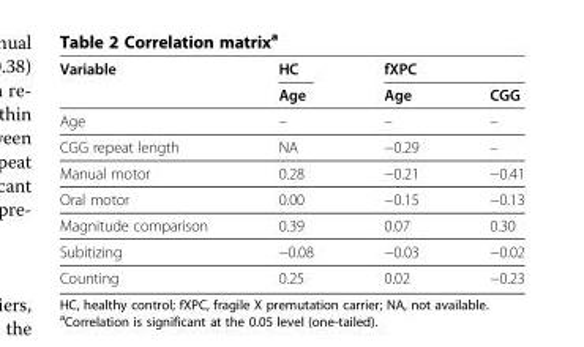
<table><thead><tr><td rowspan="2">Variable</td><td rowspan="2">HC Age</td><td colspan="2">fXPC</td></tr><tr><td>Age</td><td>CGG</td></tr></thead><tbody><tr><td>Age</td><td>–</td><td>–</td><td>–</td></tr><tr><td>CGG repeat length</td><td>NA</td><td>−0.29</td><td>–</td></tr><tr><td>Manual motor</td><td>0.28</td><td>−0.21</td><td>−0.41</td></tr><tr><td>Oral motor</td><td>0.00</td><td>−0.15</td><td>−0.13</td></tr><tr><td>Magnitude comparison</td><td>0.39</td><td>0.07</td><td>0.30</td></tr><tr><td>Subitizing</td><td>−0.08</td><td>−0.03</td><td>−0.02</td></tr><tr><td>Counting</td><td>0.25</td><td>0.02</td><td>−0.23</td></tr></tbody></table>